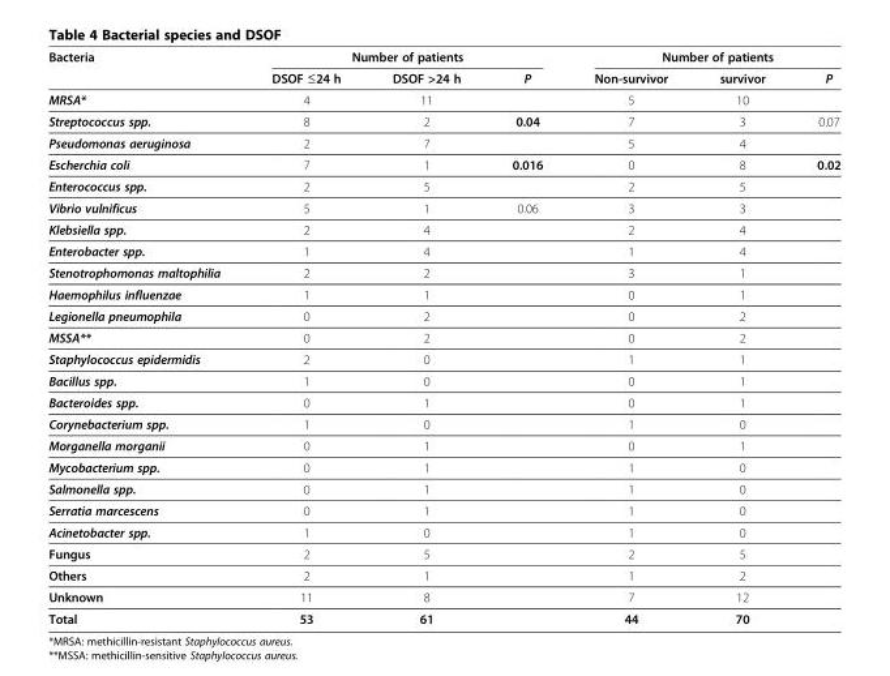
<table><thead><tr><td rowspan="2">Bacteria</td><td colspan="3">Number of patients</td><td colspan="3">Number of patients</td></tr><tr><td>DSOF ≤24 h</td><td>DSOF &gt;24 h</td><td>P</td><td>Non-survivor</td><td>survivor</td><td>P</td></tr></thead><tbody><tr><td>MRSA*</td><td>4</td><td>11</td><td></td><td>5</td><td>10</td><td></td></tr><tr><td>Streptococcus spp.</td><td>8</td><td>2</td><td>0.04</td><td>7</td><td>3</td><td>0.07</td></tr><tr><td>Pseudomonas aeruginosa</td><td>2</td><td>7</td><td></td><td>5</td><td>4</td><td></td></tr><tr><td>Escherchia coli</td><td>7</td><td>1</td><td>0.016</td><td>0</td><td>8</td><td>0.02</td></tr><tr><td>Enterococcus spp.</td><td>2</td><td>5</td><td></td><td>2</td><td>5</td><td></td></tr><tr><td>Vibrio vulnificus</td><td>5</td><td>1</td><td>0.06</td><td>3</td><td>3</td><td></td></tr><tr><td>Klebsiella spp.</td><td>2</td><td>4</td><td></td><td>2</td><td>4</td><td></td></tr><tr><td>Enterobacter spp.</td><td>1</td><td>4</td><td></td><td>1</td><td>4</td><td></td></tr><tr><td>Stenotrophomonas maltophilia</td><td>2</td><td>2</td><td></td><td>3</td><td>1</td><td></td></tr><tr><td>Haemophilus influenzae</td><td>1</td><td>1</td><td></td><td>0</td><td>1</td><td></td></tr><tr><td>Legionella pneumophila</td><td>0</td><td>2</td><td></td><td>0</td><td>2</td><td></td></tr><tr><td>MSSA**</td><td>0</td><td>2</td><td></td><td>0</td><td>2</td><td></td></tr><tr><td>Staphylococcus epidermidis</td><td>2</td><td>0</td><td></td><td>1</td><td>1</td><td></td></tr><tr><td>Bacillus spp.</td><td>1</td><td>0</td><td></td><td>0</td><td>1</td><td></td></tr><tr><td>Bacteroides spp.</td><td>0</td><td>1</td><td></td><td>0</td><td>1</td><td></td></tr><tr><td>Corynebacterium spp.</td><td>1</td><td>0</td><td></td><td>1</td><td>0</td><td></td></tr><tr><td>Morganella morganii</td><td>0</td><td>1</td><td></td><td>0</td><td>1</td><td></td></tr><tr><td>Mycobacterium spp.</td><td>0</td><td>1</td><td></td><td>1</td><td>0</td><td></td></tr><tr><td>Salmonella spp.</td><td>0</td><td>1</td><td></td><td>1</td><td>0</td><td></td></tr><tr><td>Serratia marcescens</td><td>0</td><td>1</td><td></td><td>1</td><td>0</td><td></td></tr><tr><td>Acinetobacter spp.</td><td>1</td><td>0</td><td></td><td>1</td><td>0</td><td></td></tr><tr><td>Fungus</td><td>2</td><td>5</td><td></td><td>2</td><td>5</td><td></td></tr><tr><td>Others</td><td>2</td><td>1</td><td></td><td>1</td><td>2</td><td></td></tr><tr><td>Unknown</td><td>11</td><td>8</td><td></td><td>7</td><td>12</td><td></td></tr><tr><td>Total</td><td>53</td><td>61</td><td></td><td>44</td><td>70</td><td></td></tr></tbody></table>